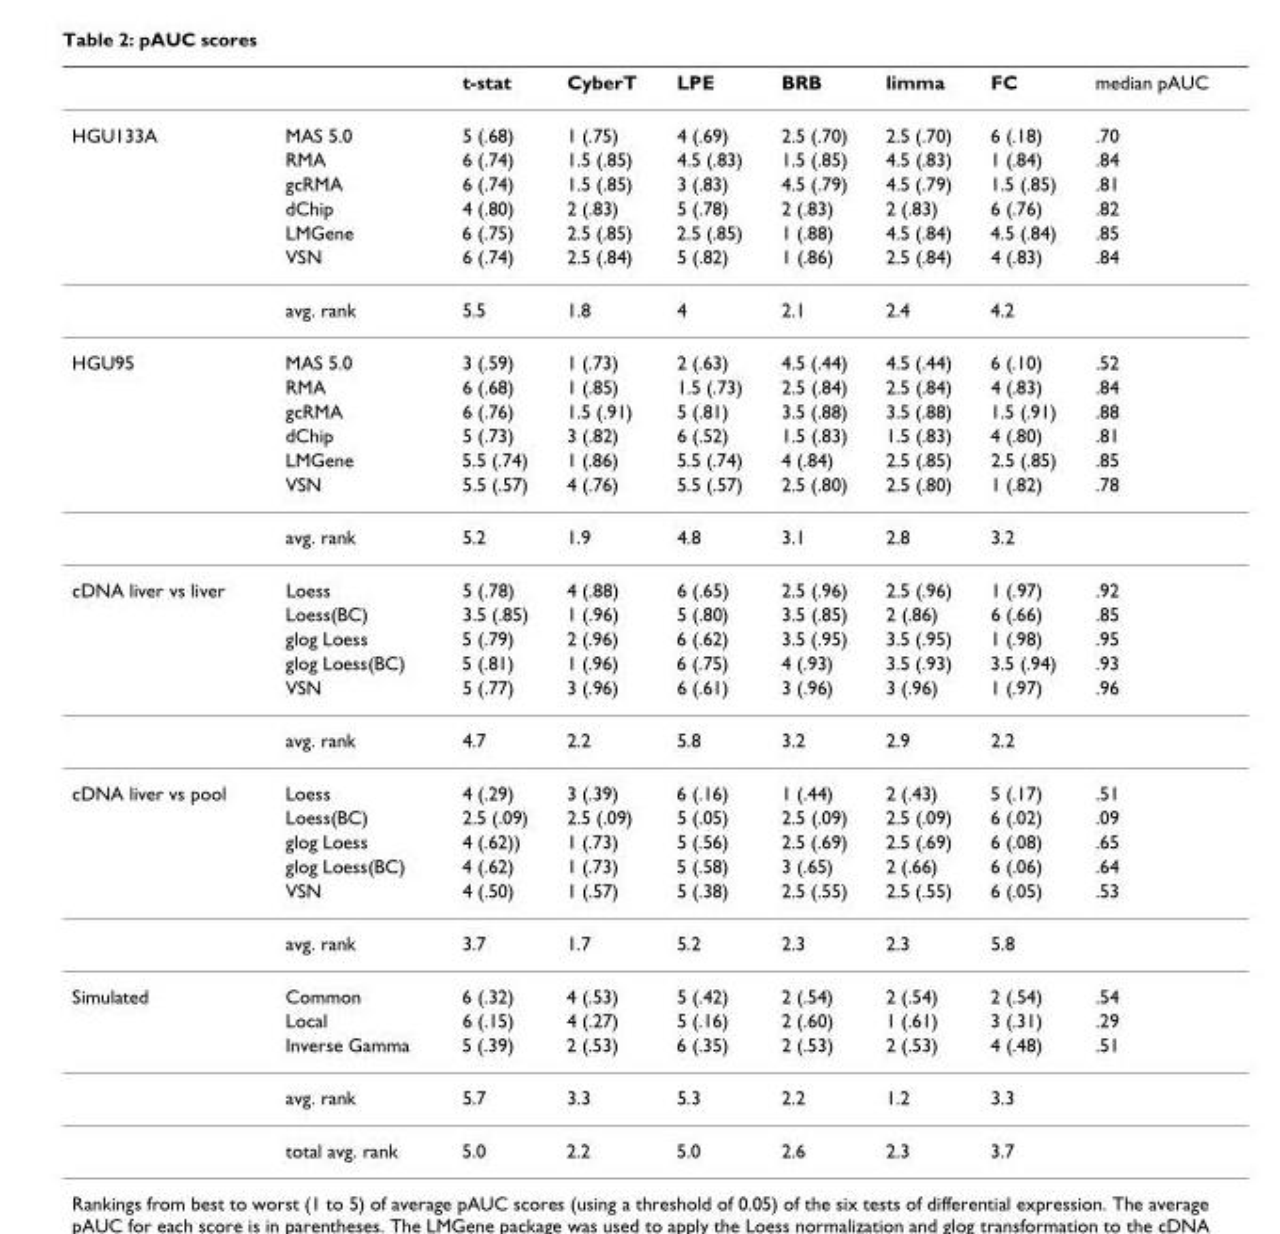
<table><thead><tr><td></td><td></td><td>t-stat</td><td>CyberT</td><td>LPE</td><td>BRB</td><td>limma</td><td>FC</td><td>median pAUC</td></tr></thead><tbody><tr><td rowspan="7">HGU133A</td><td>MAS 5.0</td><td>5 (.68)</td><td>1 (.75)</td><td>4 (.69)</td><td>2.5 (.70)</td><td>2.5 (.70)</td><td>6 (.18)</td><td>.70</td></tr><tr><td>RMA</td><td>6 (.74)</td><td>1.5 (.85)</td><td>4.5 (.83)</td><td>1.5 (.85)</td><td>4.5 (.83)</td><td>1 (.84)</td><td>.84</td></tr><tr><td>gcRMA</td><td>6 (.74)</td><td>1.5 (.85)</td><td>3 (.83)</td><td>4.5 (.79)</td><td>4.5 (.79)</td><td>1.5 (.85)</td><td>.81</td></tr><tr><td>dChip</td><td>4 (.80)</td><td>2 (.83)</td><td>5 (.78)</td><td>2 (.83)</td><td>2 (.83)</td><td>6 (.76)</td><td>.82</td></tr><tr><td>LMGene</td><td>6 (.75)</td><td>2.5 (.85)</td><td>2.5 (.85)</td><td>1 (.88)</td><td>4.5 (.84)</td><td>4.5 (.84)</td><td>.85</td></tr><tr><td>VSN</td><td>6 (.74)</td><td>2.5 (.84)</td><td>5 (.82)</td><td>1 (.86)</td><td>2.5 (.84)</td><td>4 (.83)</td><td>.84</td></tr><tr><td>avg. rank</td><td>5.5</td><td>1.8</td><td>4</td><td>2.1</td><td>2.4</td><td>4.2</td><td></td></tr><tr><td rowspan="7">HGU95</td><td>MAS 5.0</td><td>3 (.59)</td><td>1 (.73)</td><td>2 (.63)</td><td>4.5 (.44)</td><td>4.5 (.44)</td><td>6 (.10)</td><td>.52</td></tr><tr><td>RMA</td><td>6 (.68)</td><td>1 (.85)</td><td>1.5 (.73)</td><td>2.5 (.84)</td><td>2.5 (.84)</td><td>4 (.83)</td><td>.84</td></tr><tr><td>gcRMA</td><td>6 (.76)</td><td>1.5 (.91)</td><td>5 (.81)</td><td>3.5 (.88)</td><td>3.5 (.88)</td><td>1.5 (.91)</td><td>.88</td></tr><tr><td>dChip</td><td>5 (.73)</td><td>3 (.82)</td><td>6 (.52)</td><td>1.5 (.83)</td><td>1.5 (.83)</td><td>4 (.80)</td><td>.81</td></tr><tr><td>LMGene</td><td>5.5 (.74)</td><td>1 (.86)</td><td>5.5 (.74)</td><td>4 (.84)</td><td>2.5 (.85)</td><td>2.5 (.85)</td><td>.85</td></tr><tr><td>VSN</td><td>5.5 (.57)</td><td>4 (.76)</td><td>5.5 (.57)</td><td>2.5 (.80)</td><td>2.5 (.80)</td><td>1 (.82)</td><td>.78</td></tr><tr><td>avg. rank</td><td>5.2</td><td>1.9</td><td>4.8</td><td>3.1</td><td>2.8</td><td>3.2</td><td></td></tr><tr><td rowspan="6">cDNA liver vs liver</td><td>Loess</td><td>5 (.78)</td><td>4 (.88)</td><td>6 (.65)</td><td>2.5 (.96)</td><td>2.5 (.96)</td><td>1 (.97)</td><td>.92</td></tr><tr><td>Loess(BC)</td><td>3.5 (.85)</td><td>1 (.96)</td><td>5 (.80)</td><td>3.5 (.85)</td><td>2 (.86)</td><td>6 (.66)</td><td>.85</td></tr><tr><td>glog Loess</td><td>5 (.79)</td><td>2 (.96)</td><td>6 (.62)</td><td>3.5 (.95)</td><td>3.5 (.95)</td><td>1 (.98)</td><td>.95</td></tr><tr><td>glog Loess(BC)</td><td>5 (.81)</td><td>1 (.96)</td><td>6 (.75)</td><td>4 (.93)</td><td>3.5 (.93)</td><td>3.5 (.94)</td><td>.93</td></tr><tr><td>VSN</td><td>5 (.77)</td><td>3 (.96)</td><td>6 (.61)</td><td>3 (.96)</td><td>3 (.96)</td><td>1 (.97)</td><td>.96</td></tr><tr><td>avg. rank</td><td>4.7</td><td>2.2</td><td>5.8</td><td>3.2</td><td>2.9</td><td>2.2</td><td></td></tr><tr><td rowspan="6">cDNA liver vs pool</td><td>Loess</td><td>4 (.29)</td><td>3 (.39)</td><td>6 (.16)</td><td>1 (.44)</td><td>2 (.43)</td><td>5 (.17)</td><td>.51</td></tr><tr><td>Loess(BC)</td><td>2.5 (.09)</td><td>2.5 (.09)</td><td>5 (.05)</td><td>2.5 (.09)</td><td>2.5 (.09)</td><td>6 (.02)</td><td>.09</td></tr><tr><td>glog Loess</td><td>4 (.62))</td><td>1 (.73)</td><td>5 (.56)</td><td>2.5 (.69)</td><td>2.5 (.69)</td><td>6 (.08)</td><td>.65</td></tr><tr><td>glog Loess(BC)</td><td>4 (.62)</td><td>1 (.73)</td><td>5 (.58)</td><td>3 (.65)</td><td>2 (.66)</td><td>6 (.06)</td><td>.64</td></tr><tr><td>VSN</td><td>4 (.50)</td><td>1 (.57)</td><td>5 (.38)</td><td>2.5 (.55)</td><td>2.5 (.55)</td><td>6 (.05)</td><td>.53</td></tr><tr><td>avg. rank</td><td>3.7</td><td>1.7</td><td>5.2</td><td>2.3</td><td>2.3</td><td>5.8</td><td></td></tr><tr><td rowspan="5">Simulated</td><td>Common</td><td>6 (.32)</td><td>4 (.53)</td><td>5 (.42)</td><td>2 (.54)</td><td>2 (.54)</td><td>2 (.54)</td><td>.54</td></tr><tr><td>Local</td><td>6 (.15)</td><td>4 (.27)</td><td>5 (.16)</td><td>2 (.60)</td><td>1 (.61)</td><td>3 (.31)</td><td>.29</td></tr><tr><td>Inverse Gamma</td><td>5 (.39)</td><td>2 (.53)</td><td>6 (.35)</td><td>2 (.53)</td><td>2 (.53)</td><td>4 (.48)</td><td>.51</td></tr><tr><td>avg. rank</td><td>5.7</td><td>3.3</td><td>5.3</td><td>2.2</td><td>1.2</td><td>3.3</td><td></td></tr><tr><td>total avg. rank</td><td>5.0</td><td>2.2</td><td>5.0</td><td>2.6</td><td>2.3</td><td>3.7</td><td></td></tr></tbody></table>